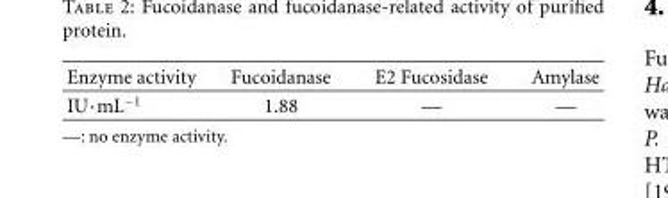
<table><thead><tr><td>Enzyme activity</td><td>Fucoidanase</td><td>E2 Fucosidase</td><td>Amylase</td></tr></thead><tbody><tr><td>IU·mL<sup>−1</sup></td><td>1.88</td><td>—</td><td>—</td></tr></tbody></table>